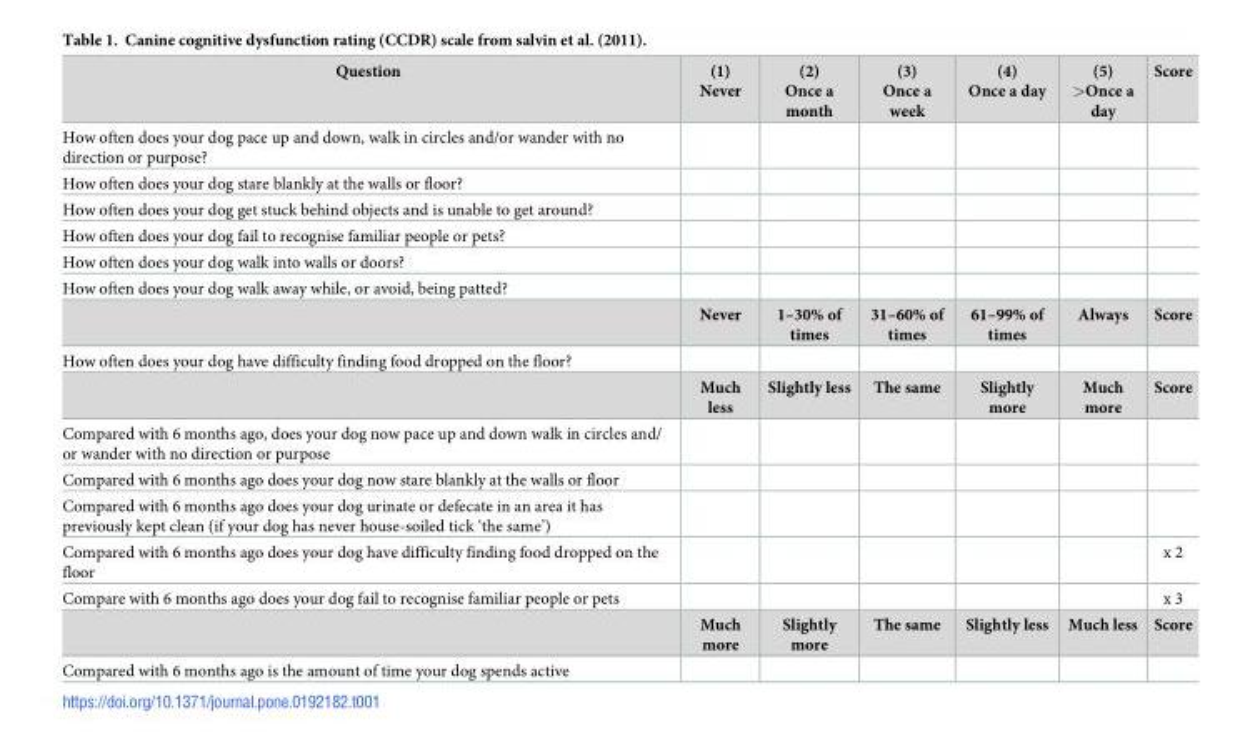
<table><thead><tr><td>Question</td><td>(1) Never</td><td>(2) Once a month</td><td>(3) Once a week</td><td>(4) Once a day</td><td>(5) &gt;Once a day</td><td>Score</td></tr></thead><tbody><tr><td colspan="7">How often does your dog pace up and down, walk in circles and/or wander with no direction or purpose?</td></tr><tr><td colspan="7">How often does your dog stare blankly at the walls or floor?</td></tr><tr><td colspan="7">How often does your dog get stuck behind objects and is unable to get around?</td></tr><tr><td colspan="7">How often does your dog fail to recognise familiar people or pets?</td></tr><tr><td colspan="7">How often does your dog walk into walls or doors?</td></tr><tr><td colspan="7">How often does your dog walk away while, or avoid, being patted?</td></tr><tr><td></td><td>Never</td><td>1–30% of times</td><td>31–60% of times</td><td>61–99% of times</td><td>Always</td><td>Score</td></tr><tr><td colspan="7">How often does your dog have difficulty finding food dropped on the floor?</td></tr><tr><td></td><td>Much less</td><td>Slightly less</td><td>The same</td><td>Slightly more</td><td>Much more</td><td>Score</td></tr><tr><td colspan="7">Compared with 6 months ago, does your dog now pace up and down walk in circles and/ or wander with no direction or purpose</td></tr><tr><td colspan="7">Compared with 6 months ago does your dog now stare blankly at the walls or floor</td></tr><tr><td colspan="7">Compared with 6 months ago does your dog urinate or defecate in an area it has previously kept clean (if your dog has never house-soiled tick ‘the same’)</td></tr><tr><td>Compared with 6 months ago does your dog have difficulty finding food dropped on the floor</td><td></td><td></td><td></td><td></td><td></td><td>x 2</td></tr><tr><td rowspan="2">Compare with 6 months ago does your dog fail to recognise familiar people or pets</td><td></td><td></td><td></td><td></td><td></td><td>x 3</td></tr><tr><td>Much more</td><td>Slightly more</td><td>The same</td><td>Slightly less</td><td>Much less</td><td>Score</td></tr><tr><td>Compared with 6 months ago is the amount of time your dog spends active</td><td></td><td></td><td></td><td></td><td></td><td></td></tr></tbody></table>